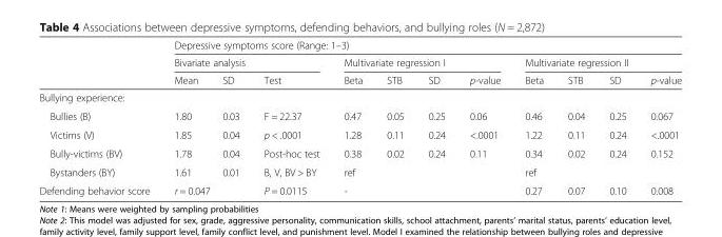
<table><thead><tr><td rowspan="3"></td><td colspan="11">Depressive symptoms score (Range: 1–3)</td></tr><tr><td colspan="3">Bivariate analysis</td><td colspan="4">Multivariate regression I</td><td colspan="4">Multivariate regression II</td></tr><tr><td>Mean</td><td>SD</td><td>Test</td><td>Beta</td><td>STB</td><td>SD</td><td>p-value</td><td>Beta</td><td>STB</td><td>SD</td><td>p-value</td></tr></thead><tbody><tr><td colspan="12">Bullying experience:</td></tr><tr><td>Bullies (B)</td><td>1.80</td><td>0.03</td><td>F = 22.37</td><td>0.47</td><td>0.05</td><td>0.25</td><td>0.06</td><td>0.46</td><td>0.04</td><td>0.25</td><td>0.067</td></tr><tr><td>Victims (V)</td><td>1.85</td><td>0.04</td><td>p &lt; .0001</td><td>1.28</td><td>0.11</td><td>0.24</td><td>&lt;.0001</td><td>1.22</td><td>0.11</td><td>0.24</td><td>&lt;.0001</td></tr><tr><td>Bully-victims (BV)</td><td>1.78</td><td>0.04</td><td>Post-hoc test</td><td>0.38</td><td>0.02</td><td>0.24</td><td>0.11</td><td>0.34</td><td>0.02</td><td>0.24</td><td>0.152</td></tr><tr><td>Bystanders (BY)</td><td>1.61</td><td>0.01</td><td>B, V, BV &gt; BY</td><td colspan="4">ref</td><td colspan="4">ref</td></tr><tr><td>Defending behavior score</td><td colspan="2">r = 0.047</td><td>P = 0.0115</td><td colspan="4">-</td><td>0.27</td><td>0.07</td><td>0.10</td><td>0.008</td></tr></tbody></table>